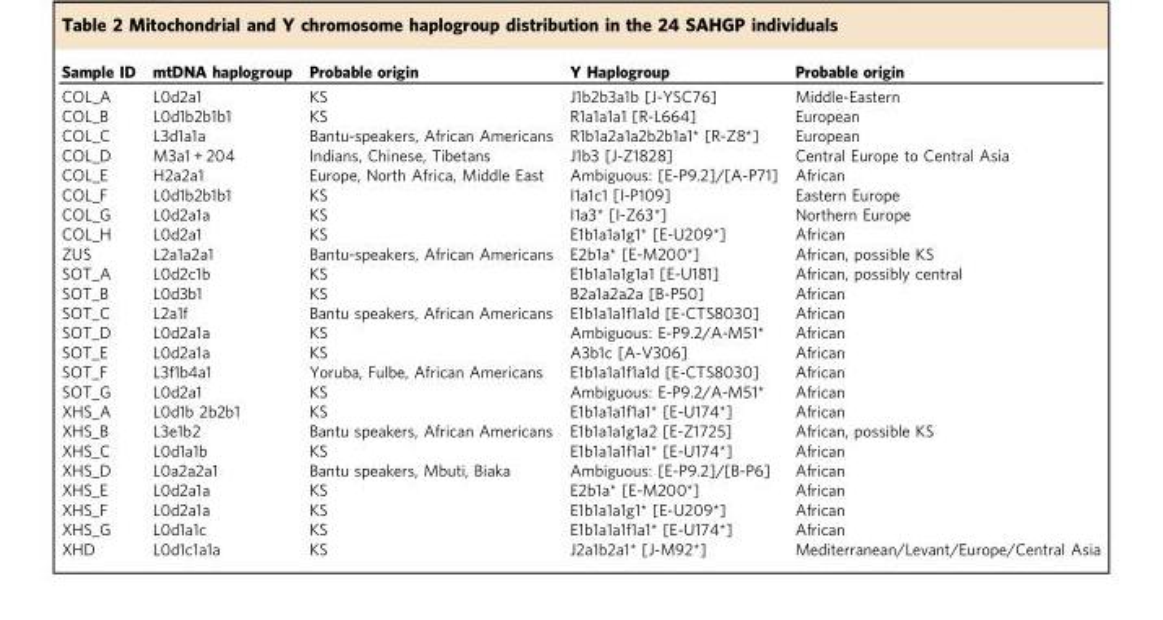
<table><thead><tr><td>Sample ID</td><td>mtDNA haplogroup</td><td>Probable origin</td><td>Y Haplogroup</td><td>Probable origin</td></tr></thead><tbody><tr><td>COL_A</td><td>L0d2a1</td><td>KS</td><td>J1b2b3a1b [J-YSC76]</td><td>Middle-Eastern</td></tr><tr><td>COL_B</td><td>L0d1b2b1b1</td><td>KS</td><td>R1a1a1a1 [R-L664]</td><td>European</td></tr><tr><td>COL_C</td><td>L3d1a1a</td><td>Bantu-speakers, African Americans</td><td>R1b1a2a1a2b2b1a1* [R-Z8*]</td><td>European</td></tr><tr><td>COL_D</td><td>M3a1 + 204</td><td>Indians, Chinese, Tibetans</td><td>J1b3 [J-Z1828]</td><td>Central Europe to Central Asia</td></tr><tr><td>COL_E</td><td>H2a2a1</td><td>Europe, North Africa, Middle East</td><td>Ambiguous: [E-P9.2]/[A-P71]</td><td>African</td></tr><tr><td>COL_F</td><td>L0d1b2b1b1</td><td>KS</td><td>I1a1c1 [I-P109]</td><td>Eastern Europe</td></tr><tr><td>COL_G</td><td>L0d2a1a</td><td>KS</td><td>I1a3* [I-Z63*]</td><td>Northern Europe</td></tr><tr><td>COL_H</td><td>L0d2a1</td><td>KS</td><td>E1b1a1a1g1* [E-U209*]</td><td>African</td></tr><tr><td>ZUS</td><td>L2a1a2a1</td><td>Bantu-speakers, African Americans</td><td>E2b1a* [E-M200*]</td><td>African, possible KS</td></tr><tr><td>SOT_A</td><td>L0d2c1b</td><td>KS</td><td>E1b1a1a1g1a1 [E-U181]</td><td>African, possibly central</td></tr><tr><td>SOT_B</td><td>L0d3b1</td><td>KS</td><td>B2a1a2a2a [B-P50]</td><td>African</td></tr><tr><td>SOT_C</td><td>L2a1f</td><td>Bantu speakers, African Americans</td><td>E1b1a1a1f1a1d [E-CTS8030]</td><td>African</td></tr><tr><td>SOT_D</td><td>L0d2a1a</td><td>KS</td><td>Ambiguous: E-P9.2/A-M51*</td><td>African</td></tr><tr><td>SOT_E</td><td>L0d2a1a</td><td>KS</td><td>A3b1c [A-V306]</td><td>African</td></tr><tr><td>SOT_F</td><td>L3f1b4a1</td><td>Yoruba, Fulbe, African Americans</td><td>E1b1a1a1f1a1d [E-CTS8030]</td><td>African</td></tr><tr><td>SOT_G</td><td>L0d2a1</td><td>KS</td><td>Ambiguous: E-P9.2/A-M51*</td><td>African</td></tr><tr><td>XHS_A</td><td>L0d1b 2b2b1</td><td>KS</td><td>E1b1a1a1f1a1* [E-U174*]</td><td>African</td></tr><tr><td>XHS_B</td><td>L3e1b2</td><td>Bantu speakers, African Americans</td><td>E1b1a1a1g1a2 [E-Z1725]</td><td>African, possible KS</td></tr><tr><td>XHS_C</td><td>L0d1a1b</td><td>KS</td><td>E1b1a1a1f1a1* [E-U174*]</td><td>African</td></tr><tr><td>XHS_D</td><td>L0a2a2a1</td><td>Bantu speakers, Mbuti, Biaka</td><td>Ambiguous: [E-P9.2]/[B-P6]</td><td>African</td></tr><tr><td>XHS_E</td><td>L0d2a1a</td><td>KS</td><td>E2b1a* [E-M200*]</td><td>African</td></tr><tr><td>XHS_F</td><td>L0d2a1a</td><td>KS</td><td>E1b1a1a1g1* [E-U209*]</td><td>African</td></tr><tr><td>XHS_G</td><td>L0d1a1c</td><td>KS</td><td>E1b1a1a1f1a1* [E-U174*]</td><td>African</td></tr><tr><td>XHD</td><td>L0d1c1a1a</td><td>KS</td><td>J2a1b2a1* [J-M92*]</td><td>Mediterranean/Levant/Europe/Central Asia</td></tr></tbody></table>